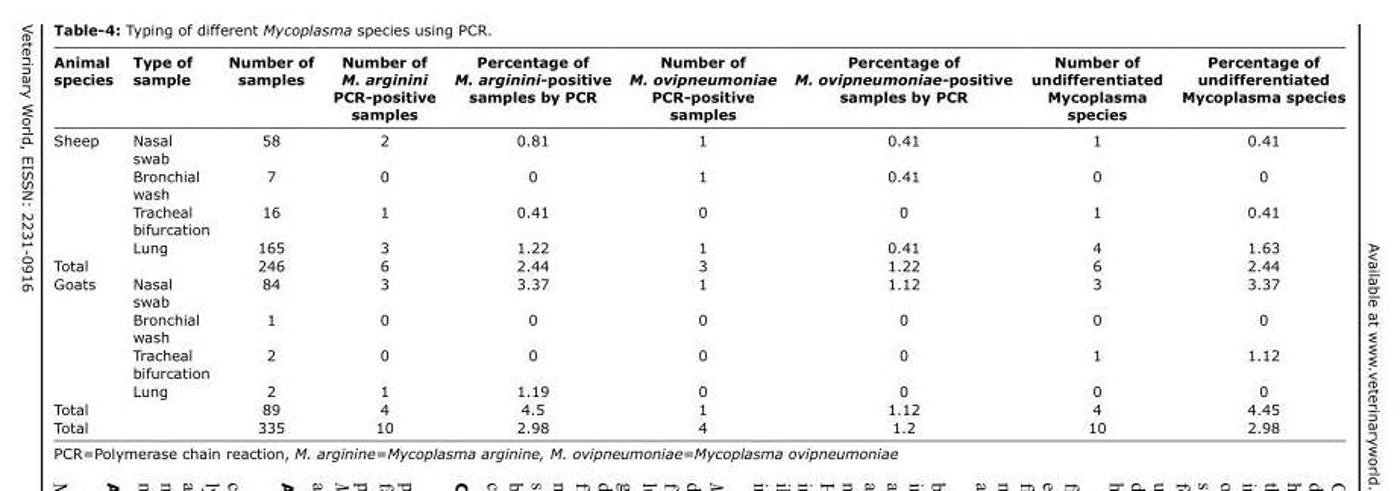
<table><thead><tr><td>Animal species</td><td>Type of sample</td><td>Number of samples</td><td>Number of M. arginini PCR-positive samples</td><td>Percentage of M. arginini-positive samples by PCR</td><td>Number of M. ovipneumoniae PCR-positive samples</td><td>Percentage of M. ovipneumoniae-positive samples by PCR</td><td>Number of undifferentiated Mycoplasma species</td><td>Percentage of undifferentiated Mycoplasma species</td></tr></thead><tbody><tr><td rowspan="4">Sheep</td><td>Nasal swab</td><td>58</td><td>2</td><td>0.81</td><td>1</td><td>0.41</td><td>1</td><td>0.41</td></tr><tr><td>Bronchial wash</td><td>7</td><td>0</td><td>0</td><td>1</td><td>0.41</td><td>0</td><td>0</td></tr><tr><td>Tracheal bifurcation</td><td>16</td><td>1</td><td>0.41</td><td>0</td><td>0</td><td>1</td><td>0.41</td></tr><tr><td>Lung</td><td>165</td><td>3</td><td>1.22</td><td>1</td><td>0.41</td><td>4</td><td>1.63</td></tr><tr><td>Total</td><td></td><td>246</td><td>6</td><td>2.44</td><td>3</td><td>1.22</td><td>6</td><td>2.44</td></tr><tr><td rowspan="4">Goats</td><td>Nasal swab</td><td>84</td><td>3</td><td>3.37</td><td>1</td><td>1.12</td><td>3</td><td>3.37</td></tr><tr><td>Bronchial wash</td><td>1</td><td>0</td><td>0</td><td>0</td><td>0</td><td>0</td><td>0</td></tr><tr><td>Tracheal bifurcation</td><td>2</td><td>0</td><td>0</td><td>0</td><td>0</td><td>1</td><td>1.12</td></tr><tr><td>Lung</td><td>2</td><td>1</td><td>1.19</td><td>0</td><td>0</td><td>0</td><td>0</td></tr><tr><td>Total</td><td></td><td>89</td><td>4</td><td>4.5</td><td>1</td><td>1.12</td><td>4</td><td>4.45</td></tr><tr><td>Total</td><td></td><td>335</td><td>10</td><td>2.98</td><td>4</td><td>1.2</td><td>10</td><td>2.98</td></tr></tbody></table>